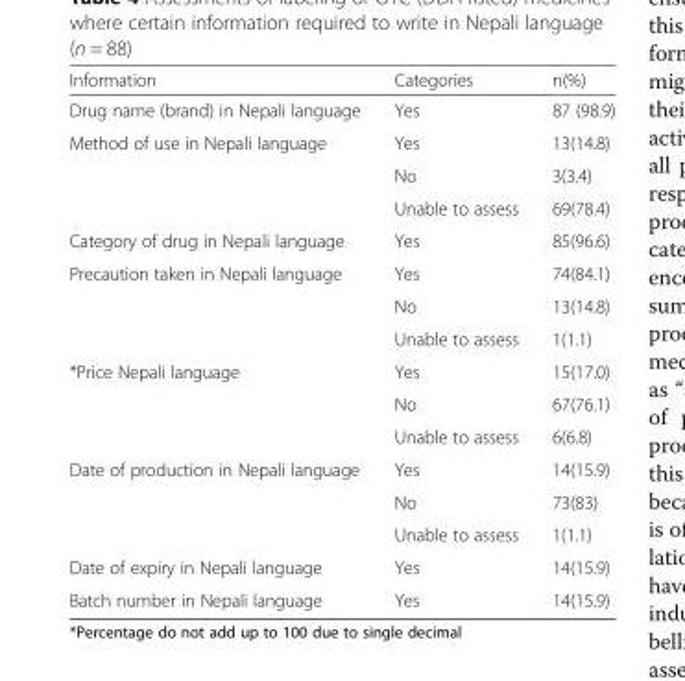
<table><thead><tr><td>Information</td><td>Categories</td><td>n(%)</td></tr></thead><tbody><tr><td>Drug name (brand) in Nepali language</td><td>Yes</td><td>87 (98.9)</td></tr><tr><td rowspan="3">Method of use in Nepali language</td><td>Yes</td><td>13(14.8)</td></tr><tr><td>No</td><td>3(3.4)</td></tr><tr><td>Unable to assess</td><td>69(78.4)</td></tr><tr><td>Category of drug in Nepali language</td><td>Yes</td><td>85(96.6)</td></tr><tr><td rowspan="3">Precaution taken in Nepali language</td><td>Yes</td><td>74(84.1)</td></tr><tr><td>No</td><td>13(14.8)</td></tr><tr><td>Unable to assess</td><td>1(1.1)</td></tr><tr><td rowspan="3">*Price Nepali language</td><td>Yes</td><td>15(17.0)</td></tr><tr><td>No</td><td>67(76.1)</td></tr><tr><td>Unable to assess</td><td>6(6.8)</td></tr><tr><td rowspan="3">Date of production in Nepali language</td><td>Yes</td><td>14(15.9)</td></tr><tr><td>No</td><td>73(83)</td></tr><tr><td>Unable to assess</td><td>1(1.1)</td></tr><tr><td>Date of expiry in Nepali language</td><td>Yes</td><td>14(15.9)</td></tr><tr><td>Batch number in Nepali language</td><td>Yes</td><td>14(15.9)</td></tr></tbody></table>